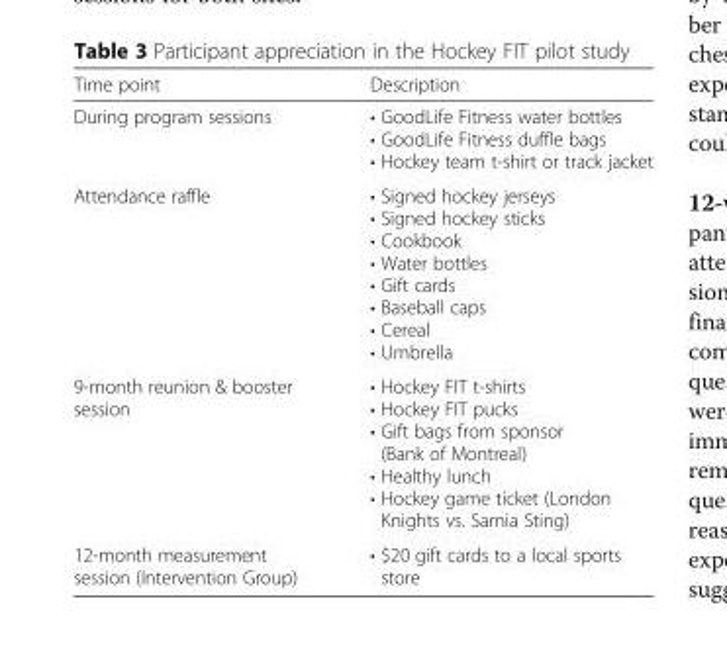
<table><thead><tr><td>Time point</td><td>Description</td></tr></thead><tbody><tr><td>During program sessions</td><td>• GoodLife Fitness water bottles • GoodLife Fitness duffle bags • Hockey team t-shirt or track jacket</td></tr><tr><td>Attendance raffle</td><td>• Signed hockey jerseys • Signed hockey sticks • Cookbook • Water bottles • Gift cards • Baseball caps • Cereal • Umbrella</td></tr><tr><td>9-month reunion &amp; booster session</td><td>• Hockey FIT t-shirts • Hockey FIT pucks • Gift bags from sponsor (Bank of Montreal) • Healthy lunch • Hockey game ticket (London Knights vs. Sarnia Sting)</td></tr><tr><td>12-month measurement session (Intervention Group)</td><td>• $20 gift cards to a local sports store</td></tr></tbody></table>